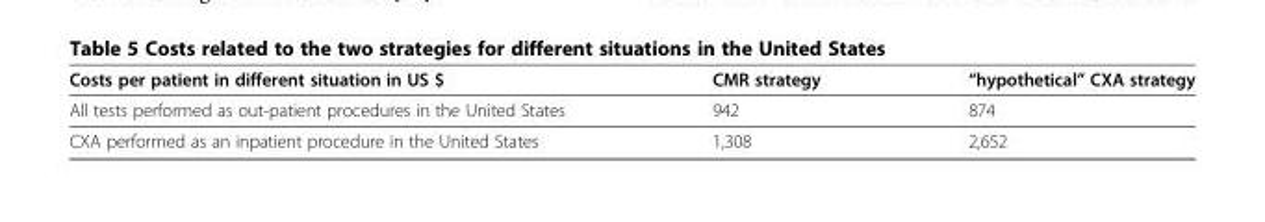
<table><thead><tr><td>Costs per patient in different situation in US $</td><td>CMR strategy</td><td>“hypothetical” CXA strategy</td></tr></thead><tbody><tr><td>All tests performed as out-patient procedures in the United States</td><td>942</td><td>874</td></tr><tr><td>CXA performed as an inpatient procedure in the United States</td><td>1,308</td><td>2,652</td></tr></tbody></table>